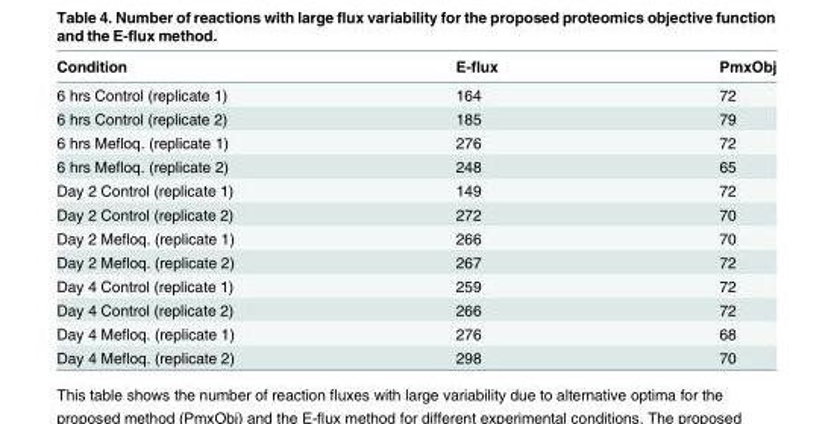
<table><thead><tr><td>Condition</td><td>E-flux</td><td>PmxObj</td></tr></thead><tbody><tr><td>6 hrs Control (replicate 1)</td><td>164</td><td>72</td></tr><tr><td>6 hrs Control (replicate 2)</td><td>185</td><td>79</td></tr><tr><td>6 hrs Mefloq. (replicate 1)</td><td>276</td><td>72</td></tr><tr><td>6 hrs Mefloq. (replicate 2)</td><td>248</td><td>65</td></tr><tr><td>Day 2 Control (replicate 1)</td><td>149</td><td>72</td></tr><tr><td>Day 2 Control (replicate 2)</td><td>272</td><td>70</td></tr><tr><td>Day 2 Mefloq. (replicate 1)</td><td>266</td><td>70</td></tr><tr><td>Day 2 Mefloq. (replicate 2)</td><td>267</td><td>72</td></tr><tr><td>Day 4 Control (replicate 1)</td><td>259</td><td>72</td></tr><tr><td>Day 4 Control (replicate 2)</td><td>266</td><td>72</td></tr><tr><td>Day 4 Mefloq. (replicate 1)</td><td>276</td><td>68</td></tr><tr><td>Day 4 Mefloq. (replicate 2)</td><td>298</td><td>70</td></tr></tbody></table>